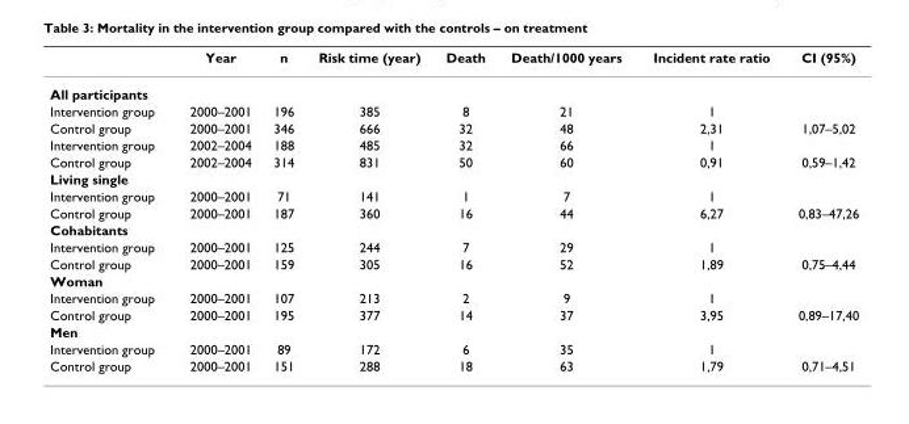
<table><thead><tr><td></td><td>Year</td><td>n</td><td>Risk time (year)</td><td>Death</td><td>Death/1000 years</td><td>Incident rate ratio</td><td>CI (95%)</td></tr></thead><tbody><tr><td colspan="8">All participants</td></tr><tr><td>Intervention group</td><td>2000–2001</td><td>196</td><td>385</td><td>8</td><td>21</td><td>1</td><td></td></tr><tr><td>Control group</td><td>2000–2001</td><td>346</td><td>666</td><td>32</td><td>48</td><td>2,31</td><td>1,07–5,02</td></tr><tr><td>Intervention group</td><td>2002–2004</td><td>188</td><td>485</td><td>32</td><td>66</td><td>1</td><td></td></tr><tr><td>Control group</td><td>2002–2004</td><td>314</td><td>831</td><td>50</td><td>60</td><td>0,91</td><td>0,59–1,42</td></tr><tr><td colspan="8">Living single</td></tr><tr><td>Intervention group</td><td>2000–2001</td><td>71</td><td>141</td><td>1</td><td>7</td><td>1</td><td></td></tr><tr><td>Control group</td><td>2000–2001</td><td>187</td><td>360</td><td>16</td><td>44</td><td>6,27</td><td>0,83–47,26</td></tr><tr><td colspan="8">Cohabitants</td></tr><tr><td>Intervention group</td><td>2000–2001</td><td>125</td><td>244</td><td>7</td><td>29</td><td>1</td><td></td></tr><tr><td>Control group</td><td>2000–2001</td><td>159</td><td>305</td><td>16</td><td>52</td><td>1,89</td><td>0,75–4,44</td></tr><tr><td colspan="8">Woman</td></tr><tr><td>Intervention group</td><td>2000–2001</td><td>107</td><td>213</td><td>2</td><td>9</td><td>1</td><td></td></tr><tr><td>Control group</td><td>2000–2001</td><td>195</td><td>377</td><td>14</td><td>37</td><td>3,95</td><td>0,89–17,40</td></tr><tr><td colspan="8">Men</td></tr><tr><td>Intervention group</td><td>2000–2001</td><td>89</td><td>172</td><td>6</td><td>35</td><td>1</td><td></td></tr><tr><td>Control group</td><td>2000–2001</td><td>151</td><td>288</td><td>18</td><td>63</td><td>1,79</td><td>0,71–4,51</td></tr></tbody></table>